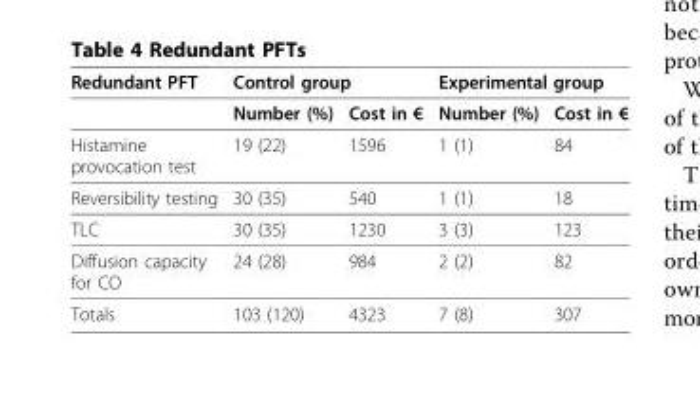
<table><thead><tr><td rowspan="2">Redundant PFT</td><td colspan="2">Control group</td><td colspan="2">Experimental group</td></tr><tr><td>Number (%)</td><td>Cost in €</td><td>Number (%)</td><td>Cost in €</td></tr></thead><tbody><tr><td>Histamine provocation test</td><td>19 (22)</td><td>1596</td><td>1 (1)</td><td>84</td></tr><tr><td>Reversibility testing</td><td>30 (35)</td><td>540</td><td>1 (1)</td><td>18</td></tr><tr><td>TLC</td><td>30 (35)</td><td>1230</td><td>3 (3)</td><td>123</td></tr><tr><td>Diffusion capacity for CO</td><td>24 (28)</td><td>984</td><td>2 (2)</td><td>82</td></tr><tr><td>Totals</td><td>103 (120)</td><td>4323</td><td>7 (8)</td><td>307</td></tr></tbody></table>